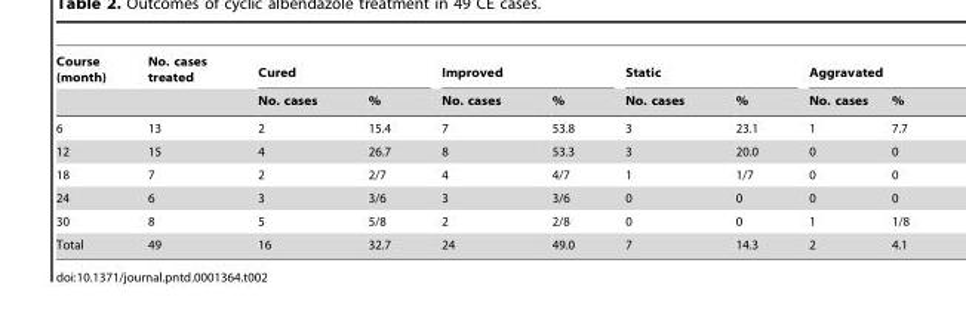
<table><thead><tr><td rowspan="2">Course (month)</td><td rowspan="2">No. cases treated</td><td colspan="2">Cured</td><td colspan="2">Improved</td><td colspan="2">Static</td><td colspan="2">Aggravated</td></tr><tr><td>No. cases</td><td>%</td><td>No. cases</td><td>%</td><td>No. cases</td><td>%</td><td>No. cases</td><td>%</td></tr></thead><tbody><tr><td>6</td><td>13</td><td>2</td><td>15.4</td><td>7</td><td>53.8</td><td>3</td><td>23.1</td><td>1</td><td>7.7</td></tr><tr><td>12</td><td>15</td><td>4</td><td>26.7</td><td>8</td><td>53.3</td><td>3</td><td>20.0</td><td>0</td><td>0</td></tr><tr><td>18</td><td>7</td><td>2</td><td>2/7</td><td>4</td><td>4/7</td><td>1</td><td>1/7</td><td>0</td><td>0</td></tr><tr><td>24</td><td>6</td><td>3</td><td>3/6</td><td>3</td><td>3/6</td><td>0</td><td>0</td><td>0</td><td>0</td></tr><tr><td>30</td><td>8</td><td>5</td><td>5/8</td><td>2</td><td>2/8</td><td>0</td><td>0</td><td>1</td><td>1/8</td></tr><tr><td>Total</td><td>49</td><td>16</td><td>32.7</td><td>24</td><td>49.0</td><td>7</td><td>14.3</td><td>2</td><td>4.1</td></tr></tbody></table>